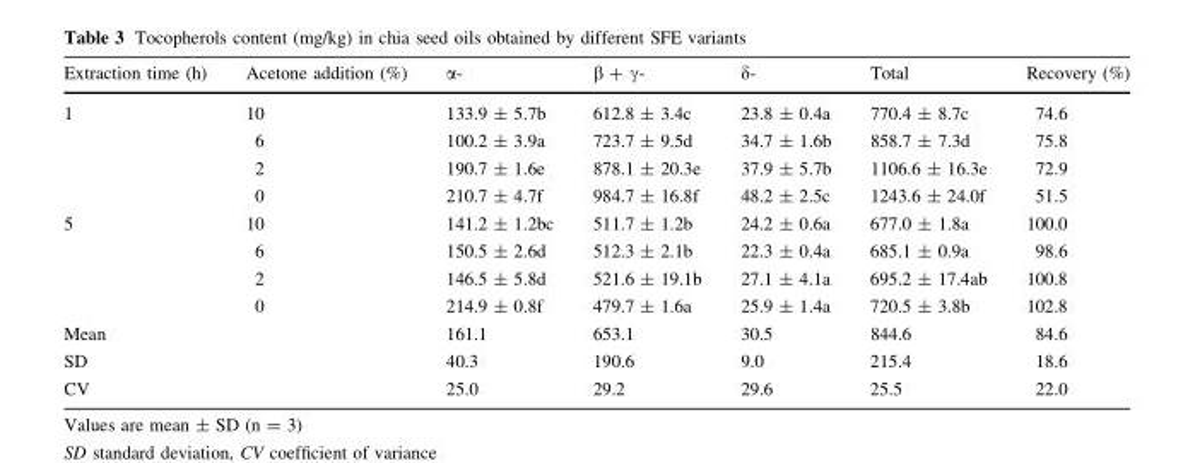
<table><thead><tr><td>Extraction time (h)</td><td>Acetone addition (%)</td><td>α-</td><td>β + γ-</td><td>δ-</td><td>Total</td><td>Recovery (%)</td></tr></thead><tbody><tr><td rowspan="4">1</td><td>10</td><td>133.9 ± 5.7b</td><td>612.8 ± 3.4c</td><td>23.8 ± 0.4a</td><td>770.4 ± 8.7c</td><td>74.6</td></tr><tr><td>6</td><td>100.2 ± 3.9a</td><td>723.7 ± 9.5d</td><td>34.7 ± 1.6b</td><td>858.7 ± 7.3d</td><td>75.8</td></tr><tr><td>2</td><td>190.7 ± 1.6e</td><td>878.1 ± 20.3e</td><td>37.9 ± 5.7b</td><td>1106.6 ± 16.3e</td><td>72.9</td></tr><tr><td>0</td><td>210.7 ± 4.7f</td><td>984.7 ± 16.8f</td><td>48.2 ± 2.5c</td><td>1243.6 ± 24.0f</td><td>51.5</td></tr><tr><td rowspan="4">5</td><td>10</td><td>141.2 ± 1.2bc</td><td>511.7 ± 1.2b</td><td>24.2 ± 0.6a</td><td>677.0 ± 1.8a</td><td>100.0</td></tr><tr><td>6</td><td>150.5 ± 2.6d</td><td>512.3 ± 2.1b</td><td>22.3 ± 0.4a</td><td>685.1 ± 0.9a</td><td>98.6</td></tr><tr><td>2</td><td>146.5 ± 5.8d</td><td>521.6 ± 19.1b</td><td>27.1 ± 4.1a</td><td>695.2 ± 17.4ab</td><td>100.8</td></tr><tr><td>0</td><td>214.9 ± 0.8f</td><td>479.7 ± 1.6a</td><td>25.9 ± 1.4a</td><td>720.5 ± 3.8b</td><td>102.8</td></tr><tr><td colspan="2">Mean</td><td>161.1</td><td>653.1</td><td>30.5</td><td>844.6</td><td>84.6</td></tr><tr><td colspan="2">SD</td><td>40.3</td><td>190.6</td><td>9.0</td><td>215.4</td><td>18.6</td></tr><tr><td colspan="2">CV</td><td>25.0</td><td>29.2</td><td>29.6</td><td>25.5</td><td>22.0</td></tr></tbody></table>